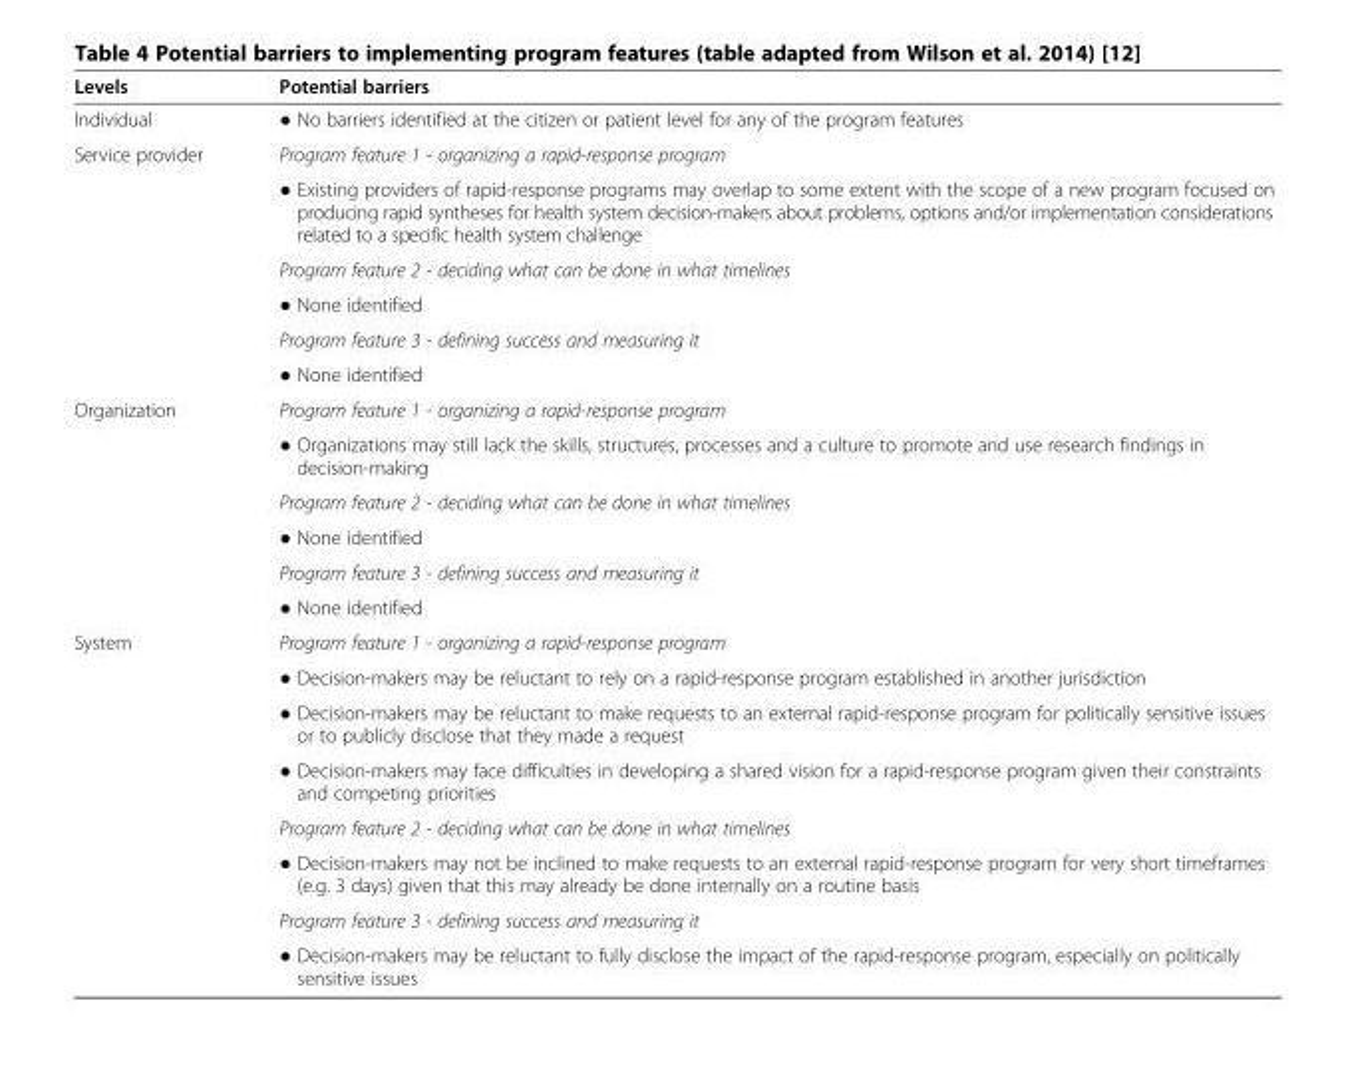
<table><thead><tr><td>Levels</td><td>Potential barriers</td></tr></thead><tbody><tr><td>Individual</td><td>● No barriers identified at the citizen or patient level for any of the program features</td></tr><tr><td rowspan="6">Service provider</td><td>Program feature 1 - organizing a rapid-response program</td></tr><tr><td>● Existing providers of rapid-response programs may overlap to some extent with the scope of a new program focused on producing rapid syntheses for health system decision-makers about problems, options and/or implementation considerations related to a specific health system challenge</td></tr><tr><td>Program feature 2 - deciding what can be done in what timelines</td></tr><tr><td>● None identified</td></tr><tr><td>Program feature 3 - defining success and measuring it</td></tr><tr><td>● None identified</td></tr><tr><td rowspan="6">Organization</td><td>Program feature 1 - organizing a rapid-response program</td></tr><tr><td>● Organizations may still lack the skills, structures, processes and a culture to promote and use research findings in decision-making</td></tr><tr><td>Program feature 2 - deciding what can be done in what timelines</td></tr><tr><td>● None identified</td></tr><tr><td>Program feature 3 - defining success and measuring it</td></tr><tr><td>● None identified</td></tr><tr><td rowspan="8">System</td><td>Program feature 1 - organizing a rapid-response program</td></tr><tr><td>● Decision-makers may be reluctant to rely on a rapid-response program established in another jurisdiction</td></tr><tr><td>● Decision-makers may be reluctant to make requests to an external rapid-response program for politically sensitive issues or to publicly disclose that they made a request</td></tr><tr><td>● Decision-makers may face difficulties in developing a shared vision for a rapid-response program given their constraints and competing priorities</td></tr><tr><td>Program feature 2 - deciding what can be done in what timelines</td></tr><tr><td>● Decision-makers may not be inclined to make requests to an external rapid-response program for very short timeframes (e.g. 3 days) given that this may already be done internally on a routine basis</td></tr><tr><td>Program feature 3 - defining success and measuring it</td></tr><tr><td>● Decision-makers may be reluctant to fully disclose the impact of the rapid-response program, especially on politically sensitive issues</td></tr></tbody></table>